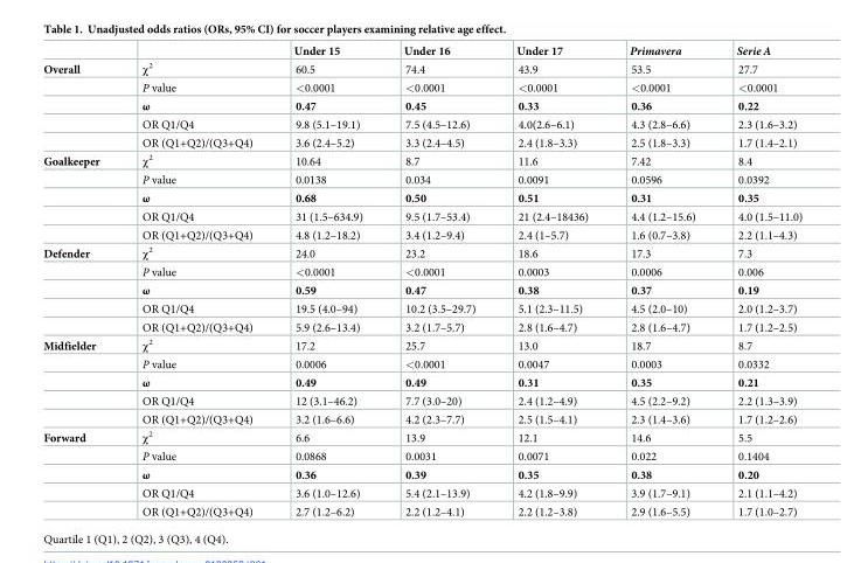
<table><thead><tr><td></td><td></td><td>Under 15</td><td>Under 16</td><td>Under 17</td><td>Primavera</td><td>Serie A</td></tr></thead><tbody><tr><td rowspan="5">Overall</td><td>χ<sup>2</sup></td><td>60.5</td><td>74.4</td><td>43.9</td><td>53.5</td><td>27.7</td></tr><tr><td>P value</td><td>&lt;0.0001</td><td>&lt;0.0001</td><td>&lt;0.0001</td><td>&lt;0.0001</td><td>&lt;0.0001</td></tr><tr><td>ω</td><td>0.47</td><td>0.45</td><td>0.33</td><td>0.36</td><td>0.22</td></tr><tr><td>OR Q1/Q4</td><td>9.8 (5.1–19.1)</td><td>7.5 (4.5–12.6)</td><td>4.0(2.6–6.1)</td><td>4.3 (2.8–6.6)</td><td>2.3 (1.6–3.2)</td></tr><tr><td>OR (Q1+Q2)/(Q3+Q4)</td><td>3.6 (2.4–5.2)</td><td>3.3 (2.4–4.5)</td><td>2.4 (1.8–3.3)</td><td>2.5 (1.8–3.3)</td><td>1.7 (1.4–2.1)</td></tr><tr><td rowspan="5">Goalkeeper</td><td>χ<sup>2</sup></td><td>10.64</td><td>8.7</td><td>11.6</td><td>7.42</td><td>8.4</td></tr><tr><td>P value</td><td>0.0138</td><td>0.034</td><td>0.0091</td><td>0.0596</td><td>0.0392</td></tr><tr><td>ω</td><td>0.68</td><td>0.50</td><td>0.51</td><td>0.31</td><td>0.35</td></tr><tr><td>OR Q1/Q4</td><td>31 (1.5–634.9)</td><td>9.5 (1.7–53.4)</td><td>21 (2.4–18436)</td><td>4.4 (1.2–15.6)</td><td>4.0 (1.5–11.0)</td></tr><tr><td>OR (Q1+Q2)/(Q3+Q4)</td><td>4.8 (1.2–18.2)</td><td>3.4 (1.2–9.4)</td><td>2.4 (1–5.7)</td><td>1.6 (0.7–3.8)</td><td>2.2 (1.1–4.3)</td></tr><tr><td rowspan="5">Defender</td><td>χ<sup>2</sup></td><td>24.0</td><td>23.2</td><td>18.6</td><td>17.3</td><td>7.3</td></tr><tr><td>P value</td><td>&lt;0.0001</td><td>&lt;0.0001</td><td>0.0003</td><td>0.0006</td><td>0.006</td></tr><tr><td>ω</td><td>0.59</td><td>0.47</td><td>0.38</td><td>0.37</td><td>0.19</td></tr><tr><td>OR Q1/Q4</td><td>19.5 (4.0–94)</td><td>10.2 (3.5–29.7)</td><td>5.1 (2.3–11.5)</td><td>4.5 (2.0–10)</td><td>2.0 (1.2–3.7)</td></tr><tr><td>OR (Q1+Q2)/(Q3+Q4)</td><td>5.9 (2.6–13.4)</td><td>3.2 (1.7–5.7)</td><td>2.8 (1.6–4.7)</td><td>2.8 (1.6–4.7)</td><td>1.7 (1.2–2.5)</td></tr><tr><td rowspan="5">Midfielder</td><td>χ<sup>2</sup></td><td>17.2</td><td>25.7</td><td>13.0</td><td>18.7</td><td>8.7</td></tr><tr><td>P value</td><td>0.0006</td><td>&lt;0.0001</td><td>0.0047</td><td>0.0003</td><td>0.0332</td></tr><tr><td>ω</td><td>0.49</td><td>0.49</td><td>0.31</td><td>0.35</td><td>0.21</td></tr><tr><td>OR Q1/Q4</td><td>12 (3.1–46.2)</td><td>7.7 (3.0–20)</td><td>2.4 (1.2–4.9)</td><td>4.5 (2.2–9.2)</td><td>2.2 (1.3–3.9)</td></tr><tr><td>OR (Q1+Q2)/(Q3+Q4)</td><td>3.2 (1.6–6.6)</td><td>4.2 (2.3–7.7)</td><td>2.5 (1.5–4.1)</td><td>2.3 (1.4–3.6)</td><td>1.7 (1.2–2.6)</td></tr><tr><td rowspan="5">Forward</td><td>χ<sup>2</sup></td><td>6.6</td><td>13.9</td><td>12.1</td><td>14.6</td><td>5.5</td></tr><tr><td>P value</td><td>0.0868</td><td>0.0031</td><td>0.0071</td><td>0.022</td><td>0.1404</td></tr><tr><td>ω</td><td>0.36</td><td>0.39</td><td>0.35</td><td>0.38</td><td>0.20</td></tr><tr><td>OR Q1/Q4</td><td>3.6 (1.0–12.6)</td><td>5.4 (2.1–13.9)</td><td>4.2 (1.8–9.9)</td><td>3.9 (1.7–9.1)</td><td>2.1 (1.1–4.2)</td></tr><tr><td>OR (Q1+Q2)/(Q3+Q4)</td><td>2.7 (1.2–6.2)</td><td>2.2 (1.2–4.1)</td><td>2.2 (1.2–3.8)</td><td>2.9 (1.6–5.5)</td><td>1.7 (1.0–2.7)</td></tr></tbody></table>